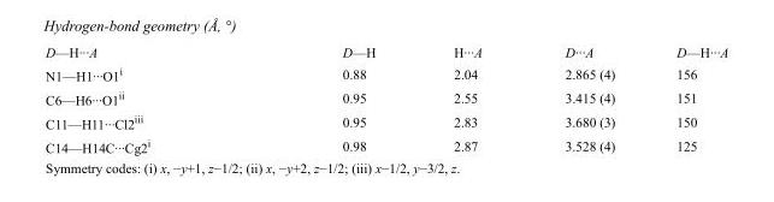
<table><tbody><tr><td>D—H···A</td><td>D—H</td><td>H···A</td><td>D···A</td><td>D—H···A</td></tr><tr><td>N1—H1···O1<sup>i</sup></td><td>0.88</td><td>2.04</td><td>2.865 (4)</td><td>156</td></tr><tr><td>C6—H6···O1<sup>ii</sup></td><td>0.95</td><td>2.55</td><td>3.415 (4)</td><td>151</td></tr><tr><td>C11—H11···Cl2<sup>iii</sup></td><td>0.95</td><td>2.83</td><td>3.680 (3)</td><td>150</td></tr><tr><td>C14—H14C···Cg2<sup>i</sup></td><td>0.98</td><td>2.87</td><td>3.528 (4)</td><td>125</td></tr></tbody></table>